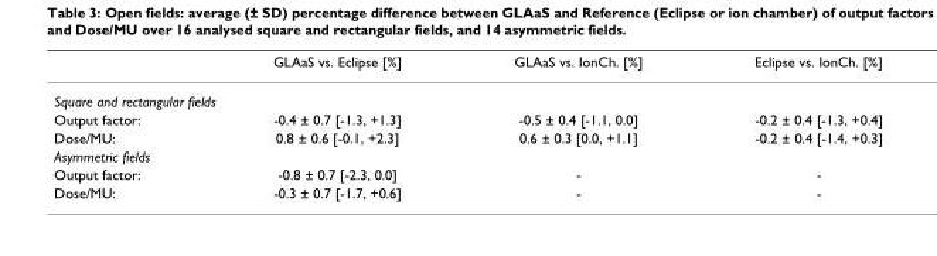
<table><thead><tr><td></td><td>GLAaS vs. Eclipse [%]</td><td>GLAaS vs. IonCh. [%]</td><td>Eclipse vs. IonCh. [%]</td></tr></thead><tbody><tr><td colspan="4">Square and rectangular fields</td></tr><tr><td>Output factor:</td><td>-0.4 ± 0.7 [-1.3, +1.3]</td><td>-0.5 ± 0.4 [-1.1, 0.0]</td><td>-0.2 ± 0.4 [-1.3, +0.4]</td></tr><tr><td>Dose/MU:</td><td>0.8 ± 0.6 [-0.1, +2.3]</td><td>0.6 ± 0.3 [0.0, +1.1]</td><td>-0.2 ± 0.4 [-1.4, +0.3]</td></tr><tr><td colspan="4">Asymmetric fields</td></tr><tr><td>Output factor:</td><td>-0.8 ± 0.7 [-2.3, 0.0]</td><td>-</td><td>-</td></tr><tr><td>Dose/MU:</td><td>-0.3 ± 0.7 [-1.7, +0.6]</td><td>-</td><td>-</td></tr></tbody></table>